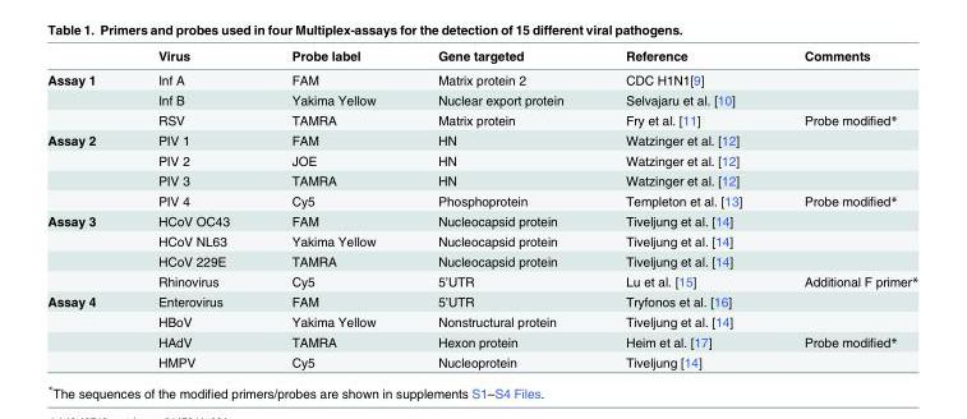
<table><thead><tr><td></td><td>Virus</td><td>Probe label</td><td>Gene targeted</td><td>Reference</td><td>Comments</td></tr></thead><tbody><tr><td rowspan="3">Assay 1</td><td>Inf A</td><td>FAM</td><td>Matrix protein 2</td><td>CDC H1N1[9]</td><td></td></tr><tr><td>Inf B</td><td>Yakima Yellow</td><td>Nuclear export protein</td><td>Selvajaru et al. [10]</td><td></td></tr><tr><td>RSV</td><td>TAMRA</td><td>Matrix protein</td><td>Fry et al. [11]</td><td>Probe modified*</td></tr><tr><td rowspan="4">Assay 2</td><td>PIV 1</td><td>FAM</td><td>HN</td><td>Watzinger et al. [12]</td><td></td></tr><tr><td>PIV 2</td><td>JOE</td><td>HN</td><td>Watzinger et al. [12]</td><td></td></tr><tr><td>PIV 3</td><td>TAMRA</td><td>HN</td><td>Watzinger et al. [12]</td><td></td></tr><tr><td>PIV 4</td><td>Cy5</td><td>Phosphoprotein</td><td>Templeton et al. [13]</td><td>Probe modified*</td></tr><tr><td rowspan="4">Assay 3</td><td>HCoV OC43</td><td>FAM</td><td>Nucleocapsid protein</td><td>Tiveljung et al. [14]</td><td></td></tr><tr><td>HCoV NL63</td><td>Yakima Yellow</td><td>Nucleocapsid protein</td><td>Tiveljung et al. [14]</td><td></td></tr><tr><td>HCoV 229E</td><td>TAMRA</td><td>Nucleocapsid protein</td><td>Tiveljung et al. [14]</td><td></td></tr><tr><td>Rhinovirus</td><td>Cy5</td><td>5’UTR</td><td>Lu et al. [15]</td><td>Additional F primer*</td></tr><tr><td rowspan="4">Assay 4</td><td>Enterovirus</td><td>FAM</td><td>5’UTR</td><td>Tryfonos et al. [16]</td><td></td></tr><tr><td>HBoV</td><td>Yakima Yellow</td><td>Nonstructural protein</td><td>Tiveljung et al. [14]</td><td></td></tr><tr><td>HAdV</td><td>TAMRA</td><td>Hexon protein</td><td>Heim et al. [17]</td><td>Probe modified*</td></tr><tr><td>HMPV</td><td>Cy5</td><td>Nucleoprotein</td><td>Tiveljung [14]</td><td></td></tr></tbody></table>